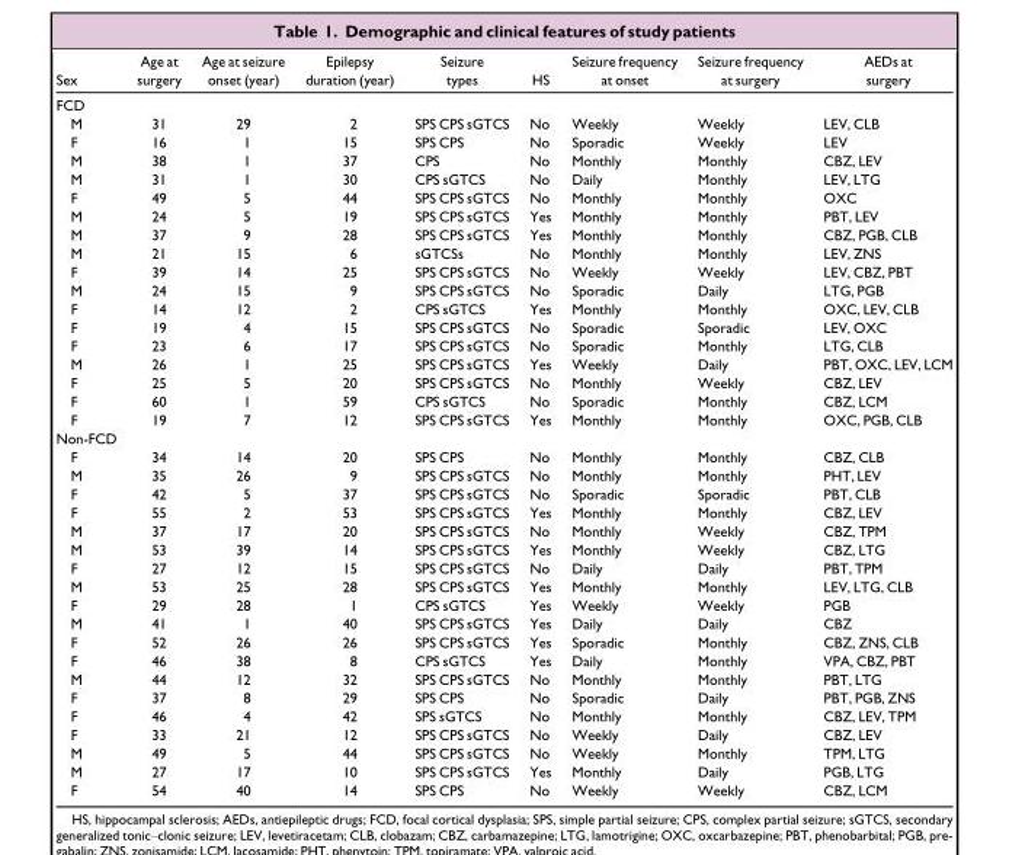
<table><thead><tr><td>Sex</td><td>Age at surgery</td><td>Age at seizure onset (year)</td><td>Epilepsy duration (year)</td><td>Seizure types</td><td>HS</td><td>Seizure frequency at onset</td><td>Seizure frequency at surgery</td><td>AEDs at surgery</td></tr></thead><tbody><tr><td colspan="9">FCD</td></tr><tr><td>M</td><td>31</td><td>29</td><td>2</td><td>SPS CPS sGTCS</td><td>No</td><td>Weekly</td><td>Weekly</td><td>LEV, CLB</td></tr><tr><td>F</td><td>16</td><td>1</td><td>15</td><td>SPS CPS</td><td>No</td><td>Sporadic</td><td>Weekly</td><td>LEV</td></tr><tr><td>M</td><td>38</td><td>1</td><td>37</td><td>CPS</td><td>No</td><td>Monthly</td><td>Monthly</td><td>CBZ, LEV</td></tr><tr><td>M</td><td>31</td><td>1</td><td>30</td><td>CPS sGTCS</td><td>No</td><td>Daily</td><td>Monthly</td><td>LEV, LTG</td></tr><tr><td>F</td><td>49</td><td>5</td><td>44</td><td>SPS CPS sGTCS</td><td>No</td><td>Monthly</td><td>Monthly</td><td>OXC</td></tr><tr><td>M</td><td>24</td><td>5</td><td>19</td><td>SPS CPS sGTCS</td><td>Yes</td><td>Monthly</td><td>Monthly</td><td>PBT, LEV</td></tr><tr><td>M</td><td>37</td><td>9</td><td>28</td><td>SPS CPS sGTCS</td><td>Yes</td><td>Monthly</td><td>Monthly</td><td>CBZ, PGB, CLB</td></tr><tr><td>M</td><td>21</td><td>15</td><td>6</td><td>sGTCSs</td><td>No</td><td>Monthly</td><td>Monthly</td><td>LEV, ZNS</td></tr><tr><td>F</td><td>39</td><td>14</td><td>25</td><td>SPS CPS sGTCS</td><td>No</td><td>Weekly</td><td>Weekly</td><td>LEV, CBZ, PBT</td></tr><tr><td>M</td><td>24</td><td>15</td><td>9</td><td>SPS CPS sGTCS</td><td>No</td><td>Sporadic</td><td>Daily</td><td>LTG, PGB</td></tr><tr><td>F</td><td>14</td><td>12</td><td>2</td><td>CPS sGTCS</td><td>Yes</td><td>Monthly</td><td>Monthly</td><td>OXC, LEV, CLB</td></tr><tr><td>F</td><td>19</td><td>4</td><td>15</td><td>SPS CPS sGTCS</td><td>No</td><td>Sporadic</td><td>Sporadic</td><td>LEV, OXC</td></tr><tr><td>F</td><td>23</td><td>6</td><td>17</td><td>SPS CPS sGTCS</td><td>No</td><td>Sporadic</td><td>Monthly</td><td>LTG, CLB</td></tr><tr><td>M</td><td>26</td><td>1</td><td>25</td><td>SPS CPS sGTCS</td><td>Yes</td><td>Weekly</td><td>Daily</td><td>PBT, OXC, LEV, LCM</td></tr><tr><td>F</td><td>25</td><td>5</td><td>20</td><td>SPS CPS sGTCS</td><td>No</td><td>Monthly</td><td>Weekly</td><td>CBZ, LEV</td></tr><tr><td>F</td><td>60</td><td>1</td><td>59</td><td>CPS sGTCS</td><td>No</td><td>Sporadic</td><td>Monthly</td><td>CBZ, LCM</td></tr><tr><td>F</td><td>19</td><td>7</td><td>12</td><td>SPS CPS sGTCS</td><td>Yes</td><td>Monthly</td><td>Monthly</td><td>OXC, PGB, CLB</td></tr><tr><td colspan="9">Non-FCD</td></tr><tr><td>F</td><td>34</td><td>14</td><td>20</td><td>SPS CPS</td><td>No</td><td>Monthly</td><td>Monthly</td><td>CBZ, CLB</td></tr><tr><td>M</td><td>35</td><td>26</td><td>9</td><td>SPS CPS sGTCS</td><td>No</td><td>Monthly</td><td>Monthly</td><td>PHT, LEV</td></tr><tr><td>F</td><td>42</td><td>5</td><td>37</td><td>SPS CPS sGTCS</td><td>No</td><td>Sporadic</td><td>Sporadic</td><td>PBT, CLB</td></tr><tr><td>F</td><td>55</td><td>2</td><td>53</td><td>SPS CPS sGTCS</td><td>Yes</td><td>Monthly</td><td>Monthly</td><td>CBZ, LEV</td></tr><tr><td>M</td><td>37</td><td>17</td><td>20</td><td>SPS CPS sGTCS</td><td>No</td><td>Monthly</td><td>Weekly</td><td>CBZ, TPM</td></tr><tr><td>M</td><td>53</td><td>39</td><td>14</td><td>SPS CPS sGTCS</td><td>Yes</td><td>Monthly</td><td>Weekly</td><td>CBZ, LTG</td></tr><tr><td>F</td><td>27</td><td>12</td><td>15</td><td>SPS CPS sGTCS</td><td>No</td><td>Daily</td><td>Daily</td><td>PBT, TPM</td></tr><tr><td>M</td><td>53</td><td>25</td><td>28</td><td>SPS CPS sGTCS</td><td>Yes</td><td>Monthly</td><td>Monthly</td><td>LEV, LTG, CLB</td></tr><tr><td>F</td><td>29</td><td>28</td><td>1</td><td>CPS sGTCS</td><td>Yes</td><td>Weekly</td><td>Weekly</td><td>PGB</td></tr><tr><td>M</td><td>41</td><td>1</td><td>40</td><td>SPS CPS sGTCS</td><td>Yes</td><td>Daily</td><td>Daily</td><td>CBZ</td></tr><tr><td>F</td><td>52</td><td>26</td><td>26</td><td>SPS CPS sGTCS</td><td>Yes</td><td>Sporadic</td><td>Monthly</td><td>CBZ, ZNS, CLB</td></tr><tr><td>F</td><td>46</td><td>38</td><td>8</td><td>CPS sGTCS</td><td>Yes</td><td>Daily</td><td>Monthly</td><td>VPA, CBZ, PBT</td></tr><tr><td>M</td><td>44</td><td>12</td><td>32</td><td>SPS CPS sGTCS</td><td>No</td><td>Monthly</td><td>Monthly</td><td>PBT, LTG</td></tr><tr><td>F</td><td>37</td><td>8</td><td>29</td><td>SPS CPS</td><td>No</td><td>Sporadic</td><td>Daily</td><td>PBT, PGB, ZNS</td></tr><tr><td>F</td><td>46</td><td>4</td><td>42</td><td>SPS sGTCS</td><td>No</td><td>Monthly</td><td>Monthly</td><td>CBZ, LEV, TPM</td></tr><tr><td>F</td><td>33</td><td>21</td><td>12</td><td>SPS CPS sGTCS</td><td>No</td><td>Weekly</td><td>Daily</td><td>CBZ, LEV</td></tr><tr><td>M</td><td>49</td><td>5</td><td>44</td><td>SPS CPS sGTCS</td><td>No</td><td>Weekly</td><td>Monthly</td><td>TPM, LTG</td></tr><tr><td>M</td><td>27</td><td>17</td><td>10</td><td>SPS CPS sGTCS</td><td>Yes</td><td>Monthly</td><td>Daily</td><td>PGB, LTG</td></tr><tr><td>F</td><td>54</td><td>40</td><td>14</td><td>SPS CPS</td><td>No</td><td>Weekly</td><td>Weekly</td><td>CBZ, LCM</td></tr></tbody></table>